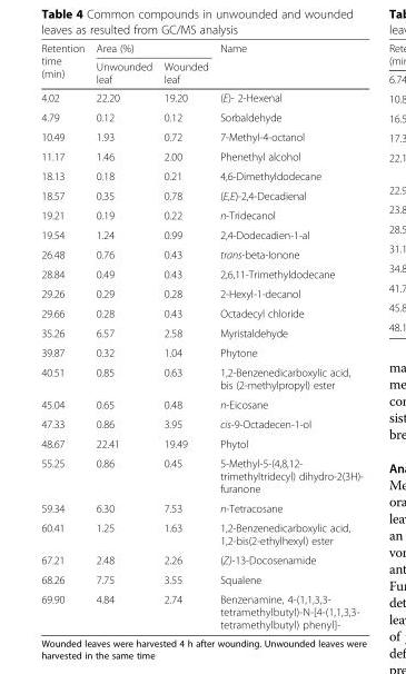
<table><thead><tr><td rowspan="2">Retention time (min)</td><td colspan="2">Area (%)</td><td rowspan="2">Name</td></tr><tr><td>Unwounded leaf</td><td>Wounded leaf</td></tr></thead><tbody><tr><td>4.02</td><td>22.20</td><td>19.20</td><td>(E)- 2-Hexenal</td></tr><tr><td>4.79</td><td>0.12</td><td>0.12</td><td>Sorbaldehyde</td></tr><tr><td>10.49</td><td>1.93</td><td>0.72</td><td>7-Methyl-4-octanol</td></tr><tr><td>11.17</td><td>1.46</td><td>2.00</td><td>Phenethyl alcohol</td></tr><tr><td>18.13</td><td>0.18</td><td>0.21</td><td>4,6-Dimethyldodecane</td></tr><tr><td>18.57</td><td>0.35</td><td>0.78</td><td>(E,E)-2,4-Decadienal</td></tr><tr><td>19.21</td><td>0.19</td><td>0.22</td><td>n-Tridecanol</td></tr><tr><td>19.54</td><td>1.24</td><td>0.99</td><td>2,4-Dodecadien-1-al</td></tr><tr><td>26.48</td><td>0.76</td><td>0.43</td><td>trans-beta-Ionone</td></tr><tr><td>28.84</td><td>0.49</td><td>0.43</td><td>2,6,11-Trimethyldodecane</td></tr><tr><td>29.26</td><td>0.29</td><td>0.28</td><td>2-Hexyl-1-decanol</td></tr><tr><td>29.66</td><td>0.28</td><td>0.43</td><td>Octadecyl chloride</td></tr><tr><td>35.26</td><td>6.57</td><td>2.58</td><td>Myristaldehyde</td></tr><tr><td>39.87</td><td>0.32</td><td>1.04</td><td>Phytone</td></tr><tr><td>40.51</td><td>0.85</td><td>0.63</td><td>1,2-Benzenedicarboxylic acid, bis (2-methylpropyl) ester</td></tr><tr><td>45.04</td><td>0.65</td><td>0.48</td><td>n-Eicosane</td></tr><tr><td>47.33</td><td>0.86</td><td>3.95</td><td>cis-9-Octadecen-1-ol</td></tr><tr><td>48.67</td><td>22.41</td><td>19.49</td><td>Phytol</td></tr><tr><td>55.25</td><td>0.86</td><td>0.45</td><td>5-Methyl-5-(4,8,12- trimethyltridecyl) dihydro-2(3H)- furanone</td></tr><tr><td>59.34</td><td>6.30</td><td>7.53</td><td>n-Tetracosane</td></tr><tr><td>60.41</td><td>1.25</td><td>1.63</td><td>1,2-Benzenedicarboxylic acid, 1,2-bis(2-ethylhexyl) ester</td></tr><tr><td>67.21</td><td>2.48</td><td>2.26</td><td>(Z)-13-Docosenamide</td></tr><tr><td>68.26</td><td>7.75</td><td>3.55</td><td>Squalene</td></tr><tr><td>69.90</td><td>4.84</td><td>2.74</td><td>Benzenamine, 4-(1,1,3,3- tetramethylbutyl)-N-[4-(1,1,3,3- tetramethylbutyl) phenyl]-</td></tr></tbody></table>